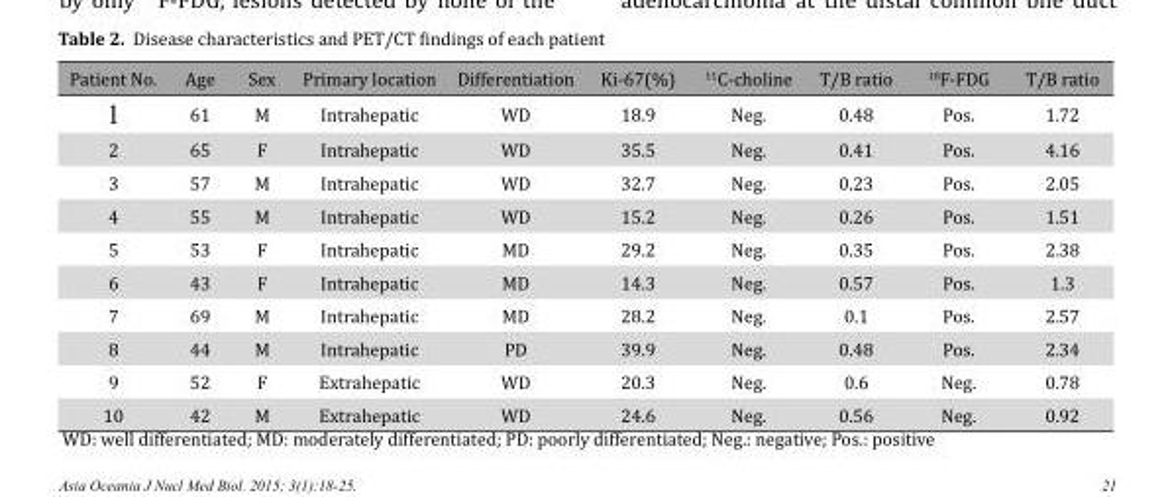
<table><thead><tr><td>Patient No.</td><td>Age</td><td>Sex</td><td>Primary location</td><td>Differentiation</td><td>Ki-67(%)</td><td><sup>11</sup>C-choline</td><td>T/B ratio</td><td><sup>18</sup>F-FDG</td><td>T/B ratio</td></tr></thead><tbody><tr><td>1</td><td>61</td><td>M</td><td>Intrahepatic</td><td>WD</td><td>18.9</td><td>Neg.</td><td>0.48</td><td>Pos.</td><td>1.72</td></tr><tr><td>2</td><td>65</td><td>F</td><td>Intrahepatic</td><td>WD</td><td>35.5</td><td>Neg.</td><td>0.41</td><td>Pos.</td><td>4.16</td></tr><tr><td>3</td><td>57</td><td>M</td><td>Intrahepatic</td><td>WD</td><td>32.7</td><td>Neg.</td><td>0.23</td><td>Pos.</td><td>2.05</td></tr><tr><td>4</td><td>55</td><td>M</td><td>Intrahepatic</td><td>WD</td><td>15.2</td><td>Neg.</td><td>0.26</td><td>Pos.</td><td>1.51</td></tr><tr><td>5</td><td>53</td><td>F</td><td>Intrahepatic</td><td>MD</td><td>29.2</td><td>Neg.</td><td>0.35</td><td>Pos.</td><td>2.38</td></tr><tr><td>6</td><td>43</td><td>F</td><td>Intrahepatic</td><td>MD</td><td>14.3</td><td>Neg.</td><td>0.57</td><td>Pos.</td><td>1.3</td></tr><tr><td>7</td><td>69</td><td>M</td><td>Intrahepatic</td><td>MD</td><td>28.2</td><td>Neg.</td><td>0.1</td><td>Pos.</td><td>2.57</td></tr><tr><td>8</td><td>44</td><td>M</td><td>Intrahepatic</td><td>PD</td><td>39.9</td><td>Neg.</td><td>0.48</td><td>Pos.</td><td>2.34</td></tr><tr><td>9</td><td>52</td><td>F</td><td>Extrahepatic</td><td>WD</td><td>20.3</td><td>Neg.</td><td>0.6</td><td>Neg.</td><td>0.78</td></tr><tr><td>10</td><td>42</td><td>M</td><td>Extrahepatic</td><td>WD</td><td>24.6</td><td>Neg.</td><td>0.56</td><td>Neg.</td><td>0.92</td></tr></tbody></table>